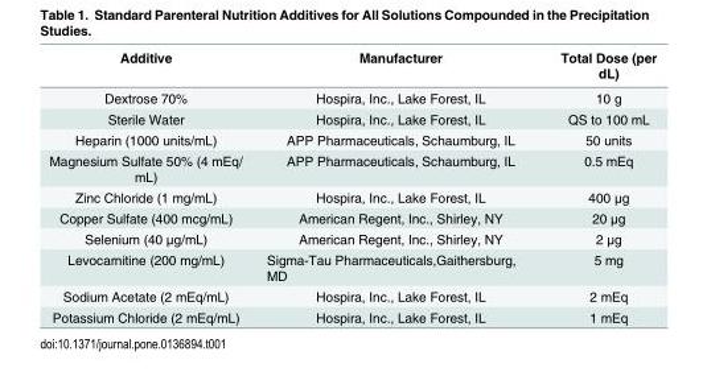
<table><thead><tr><td>Additive</td><td>Manufacturer</td><td>Total Dose (per dL)</td></tr></thead><tbody><tr><td>Dextrose 70%</td><td>Hospira, Inc., Lake Forest, IL</td><td>10 g</td></tr><tr><td>Sterile Water</td><td>Hospira, Inc., Lake Forest, IL</td><td>QS to 100 mL</td></tr><tr><td>Heparin (1000 units/mL)</td><td>APP Pharmaceuticals, Schaumburg, IL</td><td>50 units</td></tr><tr><td>Magnesium Sulfate 50% (4 mEq/ mL)</td><td>APP Pharmaceuticals, Schaumburg, IL</td><td>0.5 mEq</td></tr><tr><td>Zinc Chloride (1 mg/mL)</td><td>Hospira, Inc., Lake Forest, IL</td><td>400 μg</td></tr><tr><td>Copper Sulfate (400 mcg/mL)</td><td>American Regent, Inc., Shirley, NY</td><td>20 μg</td></tr><tr><td>Selenium (40 μg/mL)</td><td>American Regent, Inc., Shirley, NY</td><td>2 μg</td></tr><tr><td>Levocarnitine (200 mg/mL)</td><td>Sigma-Tau Pharmaceuticals,Gaithersburg, MD</td><td>5 mg</td></tr><tr><td>Sodium Acetate (2 mEq/mL)</td><td>Hospira, Inc., Lake Forest, IL</td><td>2 mEq</td></tr><tr><td>Potassium Chloride (2 mEq/mL)</td><td>Hospira, Inc., Lake Forest, IL</td><td>1 mEq</td></tr></tbody></table>